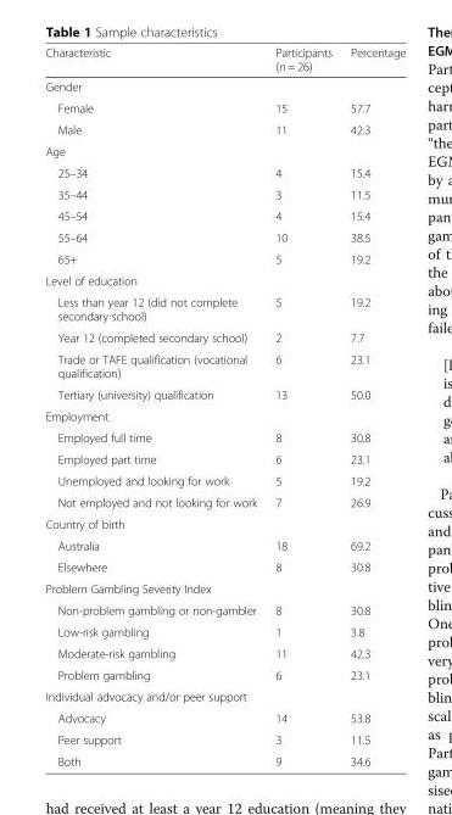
<table><thead><tr><td>Characteristic</td><td>Participants (n = 26)</td><td>Percentage</td></tr></thead><tbody><tr><td colspan="3">Gender</td></tr><tr><td>Female</td><td>15</td><td>57.7</td></tr><tr><td>Male</td><td>11</td><td>42.3</td></tr><tr><td colspan="3">Age</td></tr><tr><td>25–34</td><td>4</td><td>15.4</td></tr><tr><td>35–44</td><td>3</td><td>11.5</td></tr><tr><td>45–54</td><td>4</td><td>15.4</td></tr><tr><td>55–64</td><td>10</td><td>38.5</td></tr><tr><td>65+</td><td>5</td><td>19.2</td></tr><tr><td colspan="3">Level of education</td></tr><tr><td>Less than year 12 (did not complete secondary school)</td><td>5</td><td>19.2</td></tr><tr><td>Year 12 (completed secondary school)</td><td>2</td><td>7.7</td></tr><tr><td>Trade or TAFE qualification (vocational qualification)</td><td>6</td><td>23.1</td></tr><tr><td>Tertiary (university) qualification</td><td>13</td><td>50.0</td></tr><tr><td colspan="3">Employment</td></tr><tr><td>Employed full time</td><td>8</td><td>30.8</td></tr><tr><td>Employed part time</td><td>6</td><td>23.1</td></tr><tr><td>Unemployed and looking for work</td><td>5</td><td>19.2</td></tr><tr><td>Not employed and not looking for work</td><td>7</td><td>26.9</td></tr><tr><td colspan="3">Country of birth</td></tr><tr><td>Australia</td><td>18</td><td>69.2</td></tr><tr><td>Elsewhere</td><td>8</td><td>30.8</td></tr><tr><td colspan="3">Problem Gambling Severity Index</td></tr><tr><td>Non-problem gambling or non-gambler</td><td>8</td><td>30.8</td></tr><tr><td>Low-risk gambling</td><td>1</td><td>3.8</td></tr><tr><td>Moderate-risk gambling</td><td>11</td><td>42.3</td></tr><tr><td>Problem gambling</td><td>6</td><td>23.1</td></tr><tr><td colspan="3">Individual advocacy and/or peer support</td></tr><tr><td>Advocacy</td><td>14</td><td>53.8</td></tr><tr><td>Peer support</td><td>3</td><td>11.5</td></tr><tr><td>Both</td><td>9</td><td>34.6</td></tr></tbody></table>